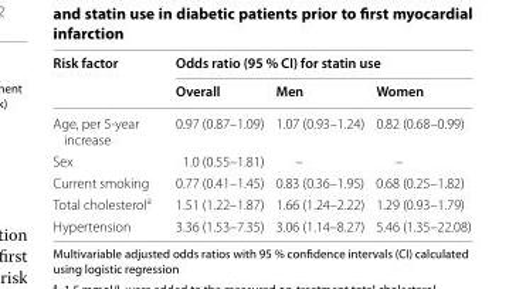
<table><thead><tr><td rowspan="2">Risk factor</td><td colspan="3">Odds ratio (95 % CI) for statin use</td></tr><tr><td>Overall</td><td>Men</td><td>Women</td></tr></thead><tbody><tr><td>Age, per 5-year increase</td><td>0.97 (0.87–1.09)</td><td>1.07 (0.93–1.24)</td><td>0.82 (0.68–0.99)</td></tr><tr><td>Sex</td><td>1.0 (0.55–1.81)</td><td>–</td><td>–</td></tr><tr><td>Current smoking</td><td>0.77 (0.41–1.45)</td><td>0.83 (0.36–1.95)</td><td>0.68 (0.25–1.82)</td></tr><tr><td>Total cholesterol<sup>a</sup></td><td>1.51 (1.22–1.87)</td><td>1.66 (1.24–2.22)</td><td>1.29 (0.93–1.79)</td></tr><tr><td>Hypertension</td><td>3.36 (1.53–7.35)</td><td>3.06 (1.14–8.27)</td><td>5.46 (1.35–22.08)</td></tr></tbody></table>